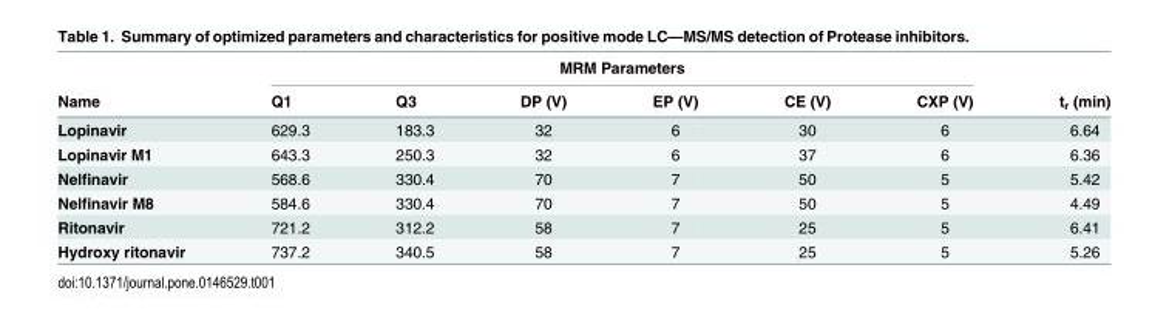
<table><thead><tr><td rowspan="2">Name</td><td colspan="6">MRM Parameters</td><td rowspan="2">t<sub>r</sub> (min)</td></tr><tr><td>Q1</td><td>Q3</td><td>DP (V)</td><td>EP (V)</td><td>CE (V)</td><td>CXP (V)</td></tr></thead><tbody><tr><td>Lopinavir</td><td>629.3</td><td>183.3</td><td>32</td><td>6</td><td>30</td><td>6</td><td>6.64</td></tr><tr><td>Lopinavir M1</td><td>643.3</td><td>250.3</td><td>32</td><td>6</td><td>37</td><td>6</td><td>6.36</td></tr><tr><td>Nelfinavir</td><td>568.6</td><td>330.4</td><td>70</td><td>7</td><td>50</td><td>5</td><td>5.42</td></tr><tr><td>Nelfinavir M8</td><td>584.6</td><td>330.4</td><td>70</td><td>7</td><td>50</td><td>5</td><td>4.49</td></tr><tr><td>Ritonavir</td><td>721.2</td><td>312.2</td><td>58</td><td>7</td><td>25</td><td>5</td><td>6.41</td></tr><tr><td>Hydroxy ritonavir</td><td>737.2</td><td>340.5</td><td>58</td><td>7</td><td>25</td><td>5</td><td>5.26</td></tr></tbody></table>